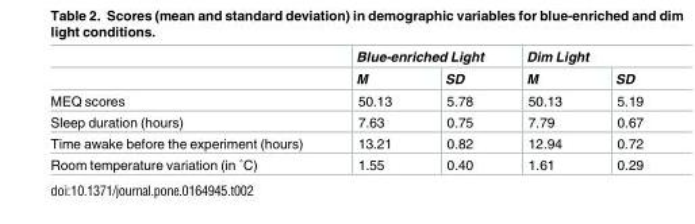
<table><thead><tr><td rowspan="2"></td><td colspan="2">Blue-enriched Light</td><td colspan="2">Dim Light</td></tr><tr><td>M</td><td>SD</td><td>M</td><td>SD</td></tr></thead><tbody><tr><td>MEQ scores</td><td>50.13</td><td>5.78</td><td>50.13</td><td>5.19</td></tr><tr><td>Sleep duration (hours)</td><td>7.63</td><td>0.75</td><td>7.79</td><td>0.67</td></tr><tr><td>Time awake before the experiment (hours)</td><td>13.21</td><td>0.82</td><td>12.94</td><td>0.72</td></tr><tr><td>Room temperature variation (in ˚C)</td><td>1.55</td><td>0.40</td><td>1.61</td><td>0.29</td></tr></tbody></table>